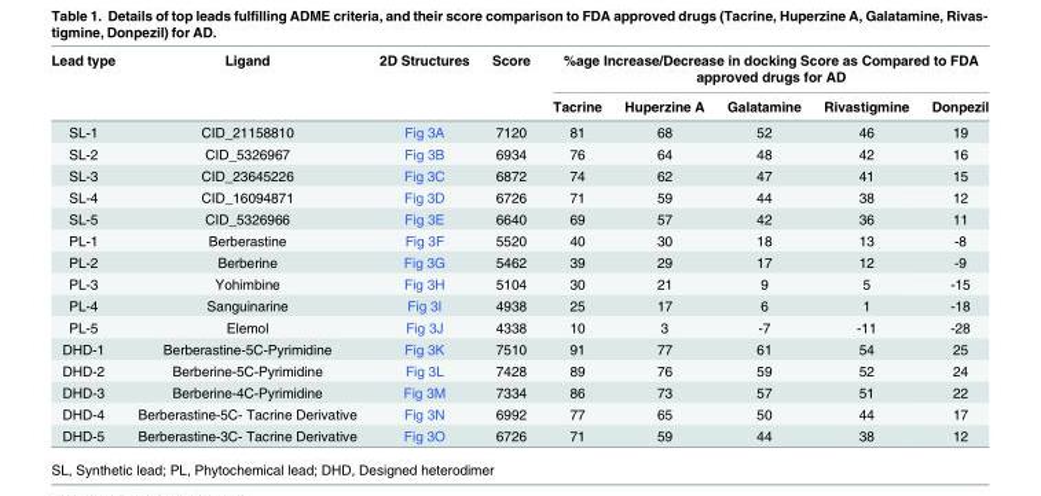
<table><thead><tr><td rowspan="2">Lead type</td><td rowspan="2">Ligand</td><td rowspan="2">2D Structures</td><td rowspan="2">Score</td><td colspan="5">%age Increase/Decrease in docking Score as Compared to FDA approved drugs for AD</td></tr><tr><td>Tacrine</td><td>Huperzine A</td><td>Galatamine</td><td>Rivastigmine</td><td>Donpezil</td></tr></thead><tbody><tr><td>SL-1</td><td>CID_21158810</td><td>Fig 3A</td><td>7120</td><td>81</td><td>68</td><td>52</td><td>46</td><td>19</td></tr><tr><td>SL-2</td><td>CID_5326967</td><td>Fig 3B</td><td>6934</td><td>76</td><td>64</td><td>48</td><td>42</td><td>16</td></tr><tr><td>SL-3</td><td>CID_23645226</td><td>Fig 3C</td><td>6872</td><td>74</td><td>62</td><td>47</td><td>41</td><td>15</td></tr><tr><td>SL-4</td><td>CID_16094871</td><td>Fig 3D</td><td>6726</td><td>71</td><td>59</td><td>44</td><td>38</td><td>12</td></tr><tr><td>SL-5</td><td>CID_5326966</td><td>Fig 3E</td><td>6640</td><td>69</td><td>57</td><td>42</td><td>36</td><td>11</td></tr><tr><td>PL-1</td><td>Berberastine</td><td>Fig 3F</td><td>5520</td><td>40</td><td>30</td><td>18</td><td>13</td><td>-8</td></tr><tr><td>PL-2</td><td>Berberine</td><td>Fig 3G</td><td>5462</td><td>39</td><td>29</td><td>17</td><td>12</td><td>-9</td></tr><tr><td>PL-3</td><td>Yohimbine</td><td>Fig 3H</td><td>5104</td><td>30</td><td>21</td><td>9</td><td>5</td><td>-15</td></tr><tr><td>PL-4</td><td>Sanguinarine</td><td>Fig 3I</td><td>4938</td><td>25</td><td>17</td><td>6</td><td>1</td><td>-18</td></tr><tr><td>PL-5</td><td>Elemol</td><td>Fig 3J</td><td>4338</td><td>10</td><td>3</td><td>-7</td><td>-11</td><td>-28</td></tr><tr><td>DHD-1</td><td>Berberastine-5C-Pyrimidine</td><td>Fig 3K</td><td>7510</td><td>91</td><td>77</td><td>61</td><td>54</td><td>25</td></tr><tr><td>DHD-2</td><td>Berberine-5C-Pyrimidine</td><td>Fig 3L</td><td>7428</td><td>89</td><td>76</td><td>59</td><td>52</td><td>24</td></tr><tr><td>DHD-3</td><td>Berberine-4C-Pyrimidine</td><td>Fig 3M</td><td>7334</td><td>86</td><td>73</td><td>57</td><td>51</td><td>22</td></tr><tr><td>DHD-4</td><td>Berberastine-5C- Tacrine Derivative</td><td>Fig 3N</td><td>6992</td><td>77</td><td>65</td><td>50</td><td>44</td><td>17</td></tr><tr><td>DHD-5</td><td>Berberastine-3C- Tacrine Derivative</td><td>Fig 3O</td><td>6726</td><td>71</td><td>59</td><td>44</td><td>38</td><td>12</td></tr></tbody></table>